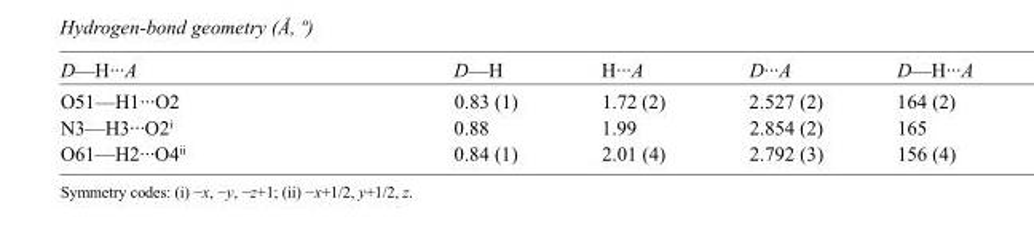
<table><tbody><tr><td>D—H···A</td><td>D—H</td><td>H···A</td><td>D···A</td><td>D—H···A</td></tr><tr><td>O51—H1···O2</td><td>0.83 (1)</td><td>1.72 (2)</td><td>2.527 (2)</td><td>164 (2)</td></tr><tr><td>N3—H3···O2<sup>i</sup></td><td>0.88</td><td>1.99</td><td>2.854 (2)</td><td>165</td></tr><tr><td>O61—H2···O4<sup>ii</sup></td><td>0.84 (1)</td><td>2.01 (4)</td><td>2.792 (3)</td><td>156 (4)</td></tr></tbody></table>